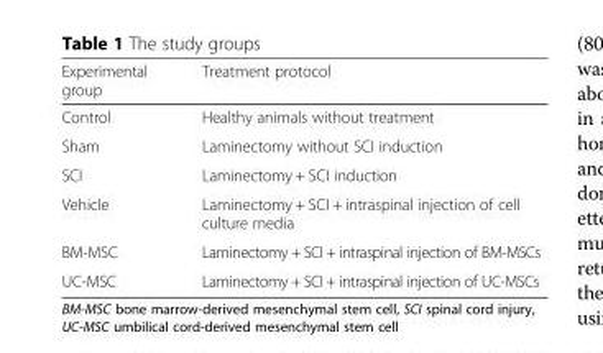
<table><thead><tr><td>Experimental group</td><td>Treatment protocol</td></tr></thead><tbody><tr><td>Control</td><td>Healthy animals without treatment</td></tr><tr><td>Sham</td><td>Laminectomy without SCI induction</td></tr><tr><td>SCI</td><td>Laminectomy + SCI induction</td></tr><tr><td>Vehicle</td><td>Laminectomy + SCI + intraspinal injection of cell culture media</td></tr><tr><td>BM-MSC</td><td>Laminectomy + SCI + intraspinal injection of BM-MSCs</td></tr><tr><td>UC-MSC</td><td>Laminectomy + SCI + intraspinal injection of UC-MSCs</td></tr></tbody></table>